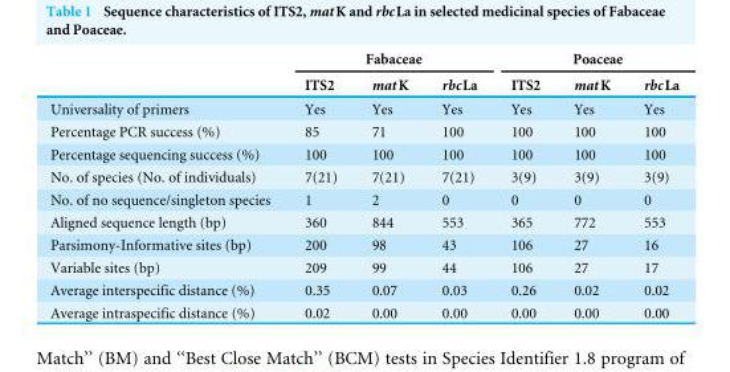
<table><thead><tr><td rowspan="2"></td><td colspan="3">Fabaceae</td><td colspan="3">Poaceae</td></tr><tr><td>ITS2</td><td>matK</td><td>rbcLa</td><td>ITS2</td><td>matK</td><td>rbcLa</td></tr></thead><tbody><tr><td>Universality of primers</td><td>Yes</td><td>Yes</td><td>Yes</td><td>Yes</td><td>Yes</td><td>Yes</td></tr><tr><td>Percentage PCR success (%)</td><td>85</td><td>71</td><td>100</td><td>100</td><td>100</td><td>100</td></tr><tr><td>Percentage sequencing success (%)</td><td>100</td><td>100</td><td>100</td><td>100</td><td>100</td><td>100</td></tr><tr><td>No. of species (No. of individuals)</td><td>7(21)</td><td>7(21)</td><td>7(21)</td><td>3(9)</td><td>3(9)</td><td>3(9)</td></tr><tr><td>No. of no sequence/singleton species</td><td>1</td><td>2</td><td>0</td><td>0</td><td>0</td><td>0</td></tr><tr><td>Aligned sequence length (bp)</td><td>360</td><td>844</td><td>553</td><td>365</td><td>772</td><td>553</td></tr><tr><td>Parsimony-Informative sites (bp)</td><td>200</td><td>98</td><td>43</td><td>106</td><td>27</td><td>16</td></tr><tr><td>Variable sites (bp)</td><td>209</td><td>99</td><td>44</td><td>106</td><td>27</td><td>17</td></tr><tr><td>Average interspecific distance (%)</td><td>0.35</td><td>0.07</td><td>0.03</td><td>0.26</td><td>0.02</td><td>0.02</td></tr><tr><td>Average intraspecific distance (%)</td><td>0.02</td><td>0.00</td><td>0.00</td><td>0.00</td><td>0.00</td><td>0.00</td></tr></tbody></table>